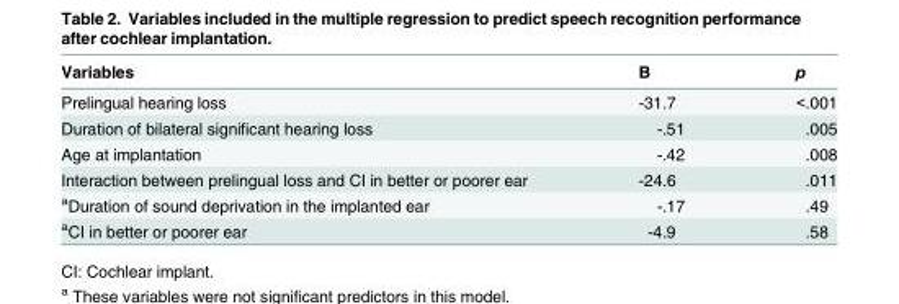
<table><thead><tr><td>Variables</td><td>B</td><td>p</td></tr></thead><tbody><tr><td>Prelingual hearing loss</td><td>-31.7</td><td>&lt;.001</td></tr><tr><td>Duration of bilateral significant hearing loss</td><td>-.51</td><td>.005</td></tr><tr><td>Age at implantation</td><td>-.42</td><td>.008</td></tr><tr><td>Interaction between prelingual loss and CI in better or poorer ear</td><td>-24.6</td><td>.011</td></tr><tr><td><sup>a</sup>Duration of sound deprivation in the implanted ear</td><td>-.17</td><td>.49</td></tr><tr><td><sup>a</sup>CI in better or poorer ear</td><td>-4.9</td><td>.58</td></tr></tbody></table>